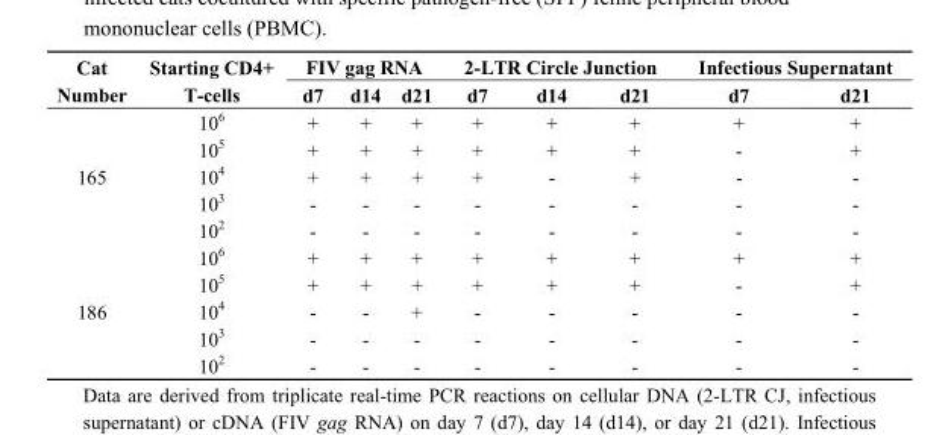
<table><thead><tr><td rowspan="2">Cat Number</td><td rowspan="2">Starting CD4+ T-cells</td><td colspan="3">FIV gag RNA</td><td colspan="3">2-LTR Circle Junction</td><td colspan="2">Infectious Supernatant</td></tr><tr><td>d7</td><td>d14</td><td>d21</td><td>d7</td><td>d14</td><td>d21</td><td>d7</td><td>d21</td></tr></thead><tbody><tr><td rowspan="5">165</td><td>10<sup>6</sup></td><td>+</td><td>+</td><td>+</td><td>+</td><td>+</td><td>+</td><td>+</td><td>+</td></tr><tr><td>10<sup>5</sup></td><td>+</td><td>+</td><td>+</td><td>+</td><td>+</td><td>+</td><td>-</td><td>+</td></tr><tr><td>10<sup>4</sup></td><td>+</td><td>+</td><td>+</td><td>+</td><td>-</td><td>+</td><td>-</td><td>-</td></tr><tr><td>10<sup>3</sup></td><td>-</td><td>-</td><td>-</td><td>-</td><td>-</td><td>-</td><td>-</td><td>-</td></tr><tr><td>10<sup>2</sup></td><td>-</td><td>-</td><td>-</td><td>-</td><td>-</td><td>-</td><td>-</td><td>-</td></tr><tr><td rowspan="5">186</td><td>10<sup>6</sup></td><td>+</td><td>+</td><td>+</td><td>+</td><td>+</td><td>+</td><td>+</td><td>+</td></tr><tr><td>10<sup>5</sup></td><td>+</td><td>+</td><td>+</td><td>+</td><td>+</td><td>+</td><td>-</td><td>+</td></tr><tr><td>10<sup>4</sup></td><td>-</td><td>-</td><td>+</td><td>-</td><td>-</td><td>-</td><td>-</td><td>-</td></tr><tr><td>10<sup>3</sup></td><td>-</td><td>-</td><td>-</td><td>-</td><td>-</td><td>-</td><td>-</td><td>-</td></tr><tr><td>10<sup>2</sup></td><td>-</td><td>-</td><td>-</td><td>-</td><td>-</td><td>-</td><td>-</td><td>-</td></tr></tbody></table>